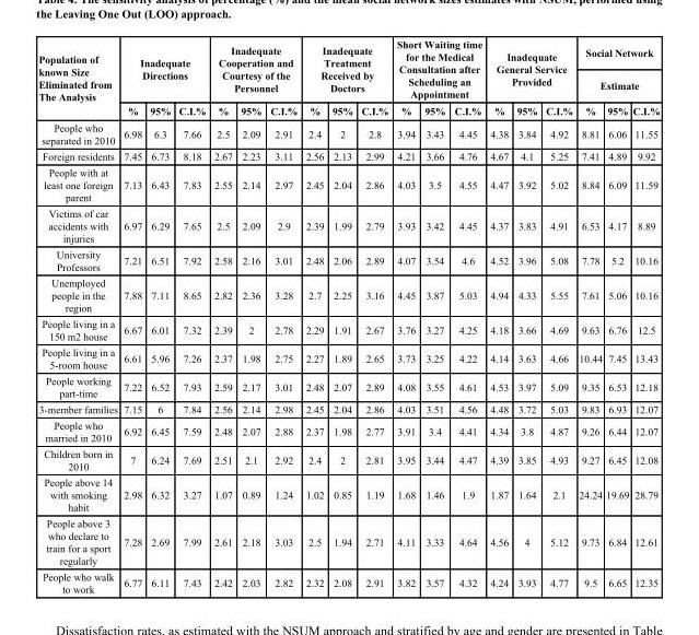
<table><thead><tr><td rowspan="3">Population of known Size Eliminated from The Analysis</td><td rowspan="2" colspan="3">Inadequate Directions</td><td rowspan="2" colspan="3">Inadequate Cooperation and Courtesy of the Personnel</td><td rowspan="2" colspan="3">Inadequate Treatment Received by Doctors</td><td rowspan="2" colspan="3">Short Waiting time for the Medical Consultation after Scheduling an Appointment</td><td rowspan="2" colspan="3">Inadequate General Service Provided</td><td rowspan="2" colspan="3">Social Network Estimate</td></tr><tr></tr><tr><td>%</td><td>95%</td><td>C.I.%</td><td>%</td><td>95%</td><td>C.I.%</td><td>%</td><td>95%</td><td>C.I.%</td><td>%</td><td>95%</td><td>C.I.%</td><td>%</td><td>95%</td><td>C.I.%</td><td>%</td><td>95%</td><td>C.I.%</td></tr></thead><tbody><tr><td>People who separated in 2010</td><td>6.98</td><td>6.3</td><td>7.66</td><td>2.5</td><td>2.09</td><td>2.91</td><td>2.4</td><td>2</td><td>2.8</td><td>3.94</td><td>3.43</td><td>4.45</td><td>4.38</td><td>3.84</td><td>4.92</td><td>8.81</td><td>6.06</td><td>11.55</td></tr><tr><td>Foreign residents</td><td>7.45</td><td>6.73</td><td>8.18</td><td>2.67</td><td>2.23</td><td>3.11</td><td>2.56</td><td>2.13</td><td>2.99</td><td>4.21</td><td>3.66</td><td>4.76</td><td>4.67</td><td>4.1</td><td>5.25</td><td>7.41</td><td>4.89</td><td>9.92</td></tr><tr><td>People with at least one foreign parent</td><td>7.13</td><td>6.43</td><td>7.83</td><td>2.55</td><td>2.14</td><td>2.97</td><td>2.45</td><td>2.04</td><td>2.86</td><td>4.03</td><td>3.5</td><td>4.55</td><td>4.47</td><td>3.92</td><td>5.02</td><td>8.84</td><td>6.09</td><td>11.59</td></tr><tr><td>Victims of car accidents with injuries</td><td>6.97</td><td>6.29</td><td>7.65</td><td>2.5</td><td>2.09</td><td>2.9</td><td>2.39</td><td>1.99</td><td>2.79</td><td>3.93</td><td>3.42</td><td>4.45</td><td>4.37</td><td>3.83</td><td>4.91</td><td>6.53</td><td>4.17</td><td>8.89</td></tr><tr><td>University Professors</td><td>7.21</td><td>6.51</td><td>7.92</td><td>2.58</td><td>2.16</td><td>3.01</td><td>2.48</td><td>2.06</td><td>2.89</td><td>4.07</td><td>3.54</td><td>4.6</td><td>4.52</td><td>3.96</td><td>5.08</td><td>7.78</td><td>5.2</td><td>10.16</td></tr><tr><td>Unemployed people in the region</td><td>7.88</td><td>7.11</td><td>8.65</td><td>2.82</td><td>2.36</td><td>3.28</td><td>2.7</td><td>2.25</td><td>3.16</td><td>4.45</td><td>3.87</td><td>5.03</td><td>4.94</td><td>4.33</td><td>5.55</td><td>7.61</td><td>5.06</td><td>10.16</td></tr><tr><td>People living in a 150 m2 house</td><td>6.67</td><td>6.01</td><td>7.32</td><td>2.39</td><td>2</td><td>2.78</td><td>2.29</td><td>1.91</td><td>2.67</td><td>3.76</td><td>3.27</td><td>4.25</td><td>4.18</td><td>3.66</td><td>4.69</td><td>9.63</td><td>6.76</td><td>12.5</td></tr><tr><td>People living in a 5-room house</td><td>6.61</td><td>5.96</td><td>7.26</td><td>2.37</td><td>1.98</td><td>2.75</td><td>2.27</td><td>1.89</td><td>2.65</td><td>3.73</td><td>3.25</td><td>4.22</td><td>4.14</td><td>3.63</td><td>4.66</td><td>10.44</td><td>7.45</td><td>13.43</td></tr><tr><td>People working part-time</td><td>7.22</td><td>6.52</td><td>7.93</td><td>2.59</td><td>2.17</td><td>3.01</td><td>2.48</td><td>2.07</td><td>2.89</td><td>4.08</td><td>3.55</td><td>4.61</td><td>4.53</td><td>3.97</td><td>5.09</td><td>9.35</td><td>6.53</td><td>12.18</td></tr><tr><td>3-member families</td><td>7.15</td><td>6</td><td>7.84</td><td>2.56</td><td>2.14</td><td>2.98</td><td>2.45</td><td>2.04</td><td>2.86</td><td>4.03</td><td>3.51</td><td>4.56</td><td>4.48</td><td>3.72</td><td>5.03</td><td>9.83</td><td>6.93</td><td>12.07</td></tr><tr><td>People who married in 2010</td><td>6.92</td><td>6.45</td><td>7.59</td><td>2.48</td><td>2.07</td><td>2.88</td><td>2.37</td><td>1.98</td><td>2.77</td><td>3.91</td><td>3.4</td><td>4.41</td><td>4.34</td><td>3.8</td><td>4.87</td><td>9.26</td><td>6.44</td><td>12.07</td></tr><tr><td>Children born in 2010</td><td>7</td><td>6.24</td><td>7.69</td><td>2.51</td><td>2.1</td><td>2.92</td><td>2.4</td><td>2</td><td>2.81</td><td>3.95</td><td>3.44</td><td>4.47</td><td>4.39</td><td>3.85</td><td>4.93</td><td>9.27</td><td>6.45</td><td>12.08</td></tr><tr><td>People above 14 with smoking habit</td><td>2.98</td><td>6.32</td><td>3.27</td><td>1.07</td><td>0.89</td><td>1.24</td><td>1.02</td><td>0.85</td><td>1.19</td><td>1.68</td><td>1.46</td><td>1.9</td><td>1.87</td><td>1.64</td><td>2.1</td><td>24.24</td><td>19.69</td><td>28.79</td></tr><tr><td>People above 3 who declare to train for a sport regularly</td><td>7.28</td><td>2.69</td><td>7.99</td><td>2.61</td><td>2.18</td><td>3.03</td><td>2.5</td><td>1.94</td><td>2.71</td><td>4.11</td><td>3.33</td><td>4.64</td><td>4.56</td><td>4</td><td>5.12</td><td>9.73</td><td>6.84</td><td>12.61</td></tr><tr><td>People who walk to work</td><td>6.77</td><td>6.11</td><td>7.43</td><td>2.42</td><td>2.03</td><td>2.82</td><td>2.32</td><td>2.08</td><td>2.91</td><td>3.82</td><td>3.57</td><td>4.32</td><td>4.24</td><td>3.93</td><td>4.77</td><td>9.5</td><td>6.65</td><td>12.35</td></tr></tbody></table>